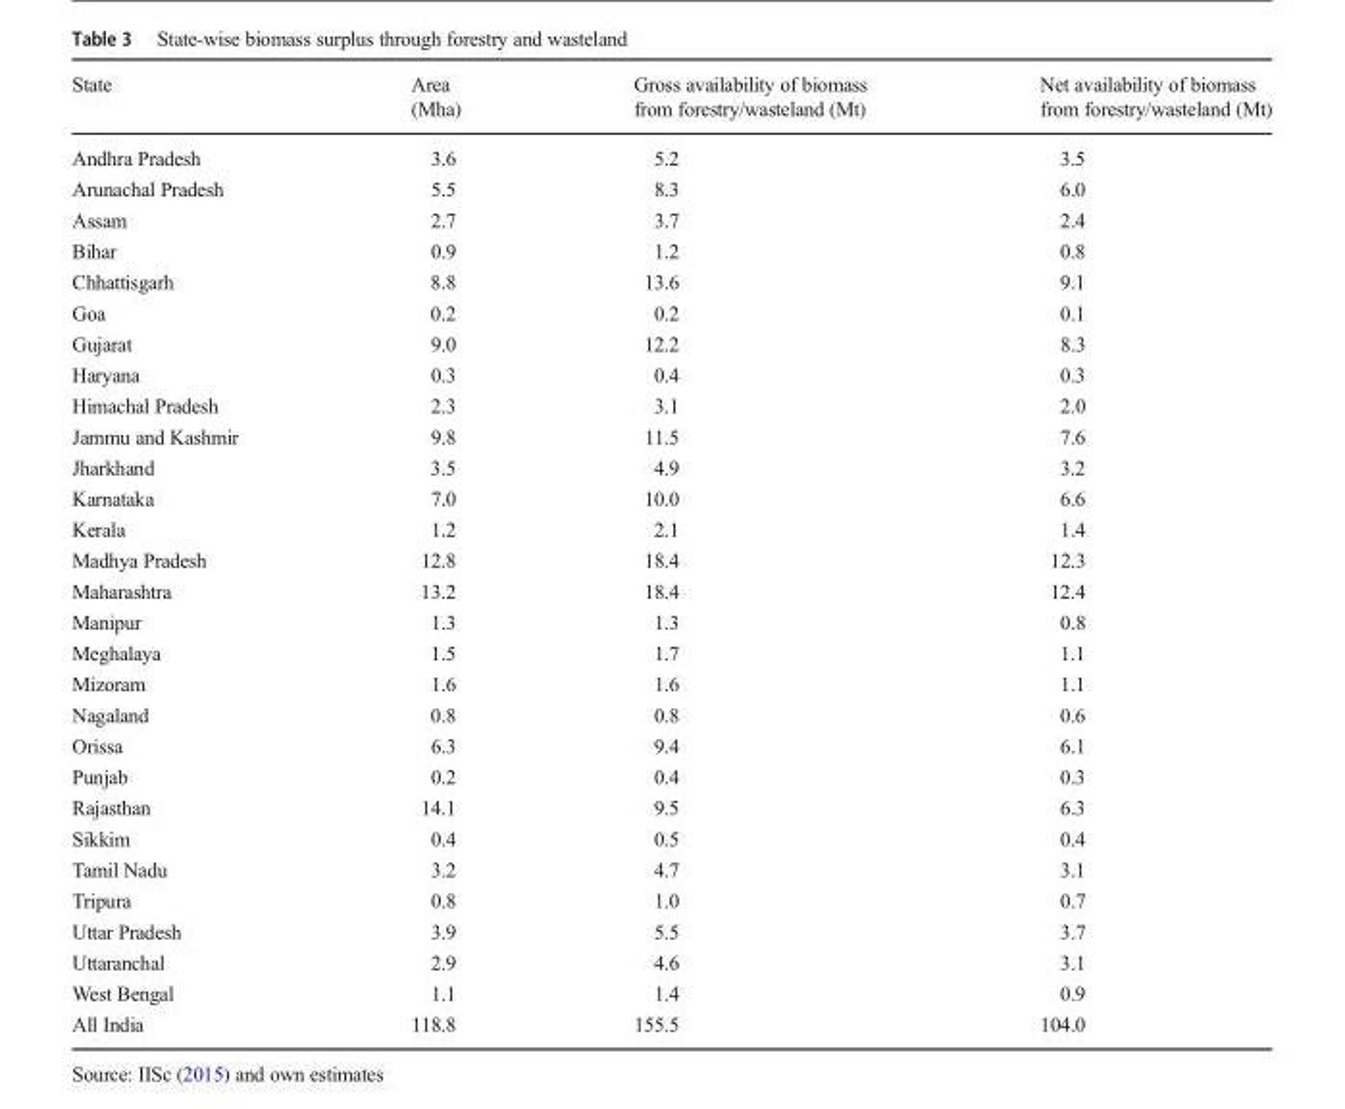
<table><thead><tr><td>State</td><td>Area (Mha)</td><td>Gross availability of biomass from forestry/wasteland (Mt)</td><td>Net availability of biomass from forestry/wasteland (Mt)</td></tr></thead><tbody><tr><td>Andhra Pradesh</td><td>3.6</td><td>5.2</td><td>3.5</td></tr><tr><td>Arunachal Pradesh</td><td>5.5</td><td>8.3</td><td>6.0</td></tr><tr><td>Assam</td><td>2.7</td><td>3.7</td><td>2.4</td></tr><tr><td>Bihar</td><td>0.9</td><td>1.2</td><td>0.8</td></tr><tr><td>Chhattisgarh</td><td>8.8</td><td>13.6</td><td>9.1</td></tr><tr><td>Goa</td><td>0.2</td><td>0.2</td><td>0.1</td></tr><tr><td>Gujarat</td><td>9.0</td><td>12.2</td><td>8.3</td></tr><tr><td>Haryana</td><td>0.3</td><td>0.4</td><td>0.3</td></tr><tr><td>Himachal Pradesh</td><td>2.3</td><td>3.1</td><td>2.0</td></tr><tr><td>Jammu and Kashmir</td><td>9.8</td><td>11.5</td><td>7.6</td></tr><tr><td>Jharkhand</td><td>3.5</td><td>4.9</td><td>3.2</td></tr><tr><td>Karnataka</td><td>7.0</td><td>10.0</td><td>6.6</td></tr><tr><td>Kerala</td><td>1.2</td><td>2.1</td><td>1.4</td></tr><tr><td>Madhya Pradesh</td><td>12.8</td><td>18.4</td><td>12.3</td></tr><tr><td>Maharashtra</td><td>13.2</td><td>18.4</td><td>12.4</td></tr><tr><td>Manipur</td><td>1.3</td><td>1.3</td><td>0.8</td></tr><tr><td>Meghalaya</td><td>1.5</td><td>1.7</td><td>1.1</td></tr><tr><td>Mizoram</td><td>1.6</td><td>1.6</td><td>1.1</td></tr><tr><td>Nagaland</td><td>0.8</td><td>0.8</td><td>0.6</td></tr><tr><td>Orissa</td><td>6.3</td><td>9.4</td><td>6.1</td></tr><tr><td>Punjab</td><td>0.2</td><td>0.4</td><td>0.3</td></tr><tr><td>Rajasthan</td><td>14.1</td><td>9.5</td><td>6.3</td></tr><tr><td>Sikkim</td><td>0.4</td><td>0.5</td><td>0.4</td></tr><tr><td>Tamil Nadu</td><td>3.2</td><td>4.7</td><td>3.1</td></tr><tr><td>Tripura</td><td>0.8</td><td>1.0</td><td>0.7</td></tr><tr><td>Uttar Pradesh</td><td>3.9</td><td>5.5</td><td>3.7</td></tr><tr><td>Uttaranchal</td><td>2.9</td><td>4.6</td><td>3.1</td></tr><tr><td>West Bengal</td><td>1.1</td><td>1.4</td><td>0.9</td></tr><tr><td>All India</td><td>118.8</td><td>155.5</td><td>104.0</td></tr></tbody></table>